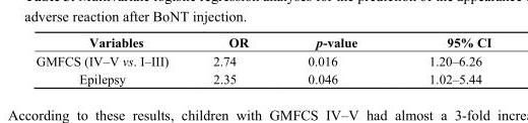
<table><thead><tr><td>Variables</td><td>OR</td><td>p-value</td><td>95% CI</td></tr></thead><tbody><tr><td>GMFCS (IV–V vs. I–III)</td><td>2.74</td><td>0.016</td><td>1.20–6.26</td></tr><tr><td>Epilepsy</td><td>2.35</td><td>0.046</td><td>1.02–5.44</td></tr></tbody></table>